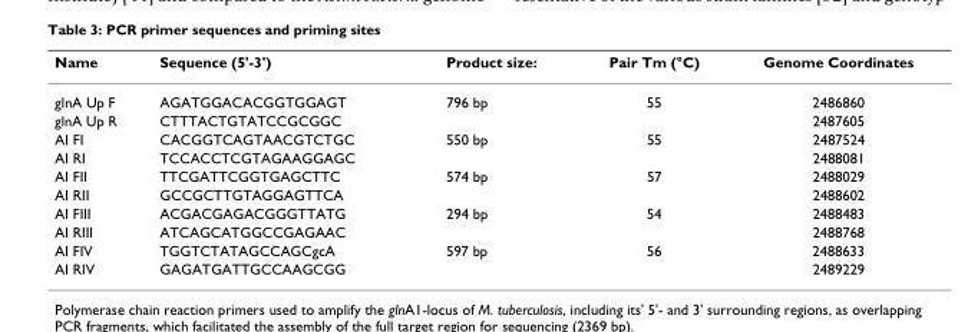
<table><thead><tr><td>Name</td><td>Sequence (5&#x27;-3&#x27;)</td><td>Product size:</td><td>Pair Tm (°C)</td><td>Genome Coordinates</td></tr></thead><tbody><tr><td>glnA Up F</td><td>AGATGGACACGGTGGAGT</td><td>796 bp</td><td>55</td><td>2486860</td></tr><tr><td>glnA Up R</td><td>CTTTACTGTATCCGCGGC</td><td></td><td></td><td>2487605</td></tr><tr><td>AI FI</td><td>CACGGTCAGTAACGTCTGC</td><td>550 bp</td><td>55</td><td>2487524</td></tr><tr><td>AI RI</td><td>TCCACCTCGTAGAAGGAGC</td><td></td><td></td><td>2488081</td></tr><tr><td>AI FII</td><td>TTCGATTCGGTGAGCTTC</td><td>574 bp</td><td>57</td><td>2488029</td></tr><tr><td>AI RII</td><td>GCCGCTTGTAGGAGTTCA</td><td></td><td></td><td>2488602</td></tr><tr><td>AI FIII</td><td>ACGACGAGACGGGTTATG</td><td>294 bp</td><td>54</td><td>2488483</td></tr><tr><td>AI RIII</td><td>ATCAGCATGGCCGAGAAC</td><td></td><td></td><td>2488768</td></tr><tr><td>AI FIV</td><td>TGGTCTATAGCCAGCgcA</td><td>597 bp</td><td>56</td><td>2488633</td></tr><tr><td>AI RIV</td><td>GAGATGATTGCCAAGCGG</td><td></td><td></td><td>2489229</td></tr></tbody></table>